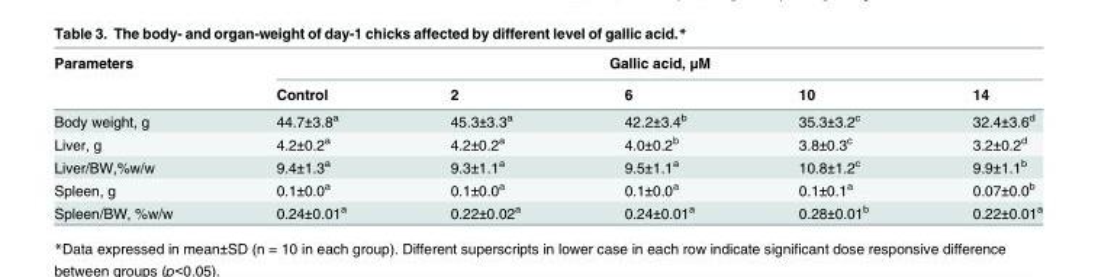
<table><thead><tr><td rowspan="2">Parameters</td><td colspan="5">Gallic acid, μM</td></tr><tr><td>Control</td><td>2</td><td>6</td><td>10</td><td>14</td></tr></thead><tbody><tr><td>Body weight, g</td><td>44.7±3.8<sup>a</sup></td><td>45.3±3.3<sup>a</sup></td><td>42.2±3.4<sup>b</sup></td><td>35.3±3.2<sup>c</sup></td><td>32.4±3.6<sup>d</sup></td></tr><tr><td>Liver, g</td><td>4.2±0.2<sup>a</sup></td><td>4.2±0.2<sup>a</sup></td><td>4.0±0.2<sup>b</sup></td><td>3.8±0.3<sup>c</sup></td><td>3.2±0.2<sup>d</sup></td></tr><tr><td>Liver/BW,%w/w</td><td>9.4±1.3<sup>a</sup></td><td>9.3±1.1<sup>a</sup></td><td>9.5±1.1<sup>a</sup></td><td>10.8±1.2<sup>c</sup></td><td>9.9±1.1<sup>b</sup></td></tr><tr><td>Spleen, g</td><td>0.1±0.0<sup>a</sup></td><td>0.1±0.0<sup>a</sup></td><td>0.1±0.0<sup>a</sup></td><td>0.1±0.1<sup>a</sup></td><td>0.07±0.0<sup>b</sup></td></tr><tr><td>Spleen/BW, %w/w</td><td>0.24±0.01<sup>a</sup></td><td>0.22±0.02<sup>a</sup></td><td>0.24±0.01<sup>a</sup></td><td>0.28±0.01<sup>b</sup></td><td>0.22±0.01<sup>a</sup></td></tr></tbody></table>